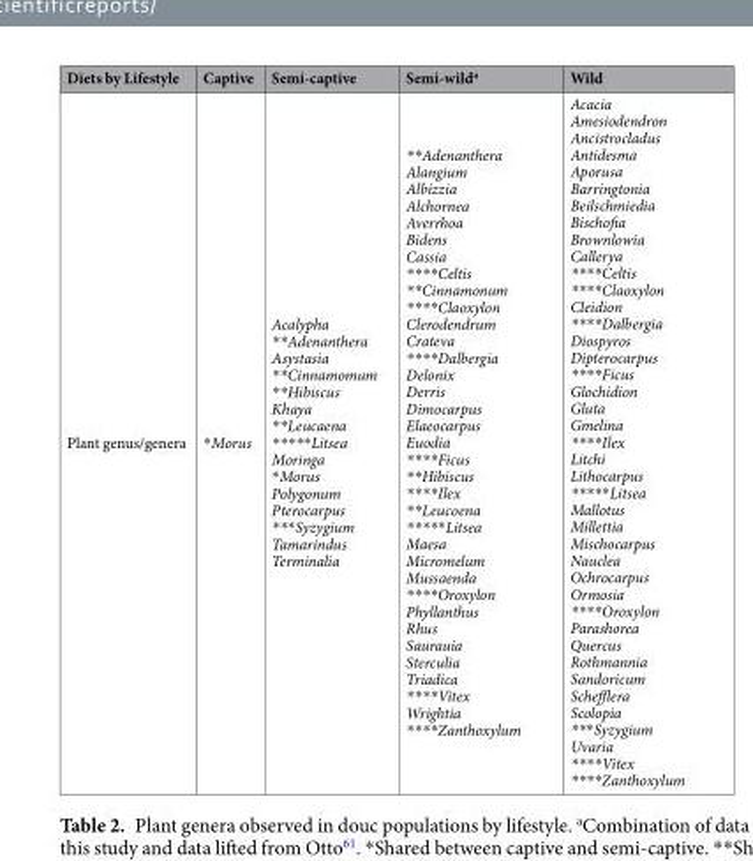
<table><thead><tr><td>Diets by Lifestyle</td><td>Captive</td><td>Semi-captive</td><td>Semi-wild<sup>a</sup></td><td>Wild</td></tr></thead><tbody><tr><td>Plant genus/genera</td><td>*Morus</td><td>Acalypha **Adenanthera Asystasia **Cinnamomum **Hibiscus Khaya **Leucaena *****Litsea Moringa *Morus Polygonum Pterocarpus ***Syzygium Tamarindus Terminalia</td><td>**Adenanthera Alangium Albizzia Alchornea Averrhoa Bidens Cassia ****Celtis **Cinnamonum ****Claoxylon Clerodendrum Crateva ****Dalbergia Delonix Derris Dimocarpus Elaeocarpus Euodia ****Ficus **Hibiscus ****Ilex **Leucoena *****Litsea Maesa Micromelum Mussaenda ****Oroxylon Phyllanthus Rhus Saurauia Sterculia Triadica ****Vitex Wrightia ****Zanthoxylum</td><td>Acacia Amesiodendron Ancistrocladus Antidesma Aporusa Barringtonia Beilschmiedia Bischofia Brownlowia Callerya ****Celtis ****Claoxylon Cleidion ****Dalbergia Diospyros Dipterocarpus ****Ficus Glochidion Gluta Gmelina ****Ilex Litchi Lithocarpus *****Litsea Mallotus Millettia Mischocarpus Nauclea Ochrocarpus Ormosia ****Oroxylon Parashorea Quercus Rothmannia Sandoricum Schefflera Scolopia ***Syzygium Uvaria ****Vitex ****Zanthoxylum</td></tr></tbody></table>